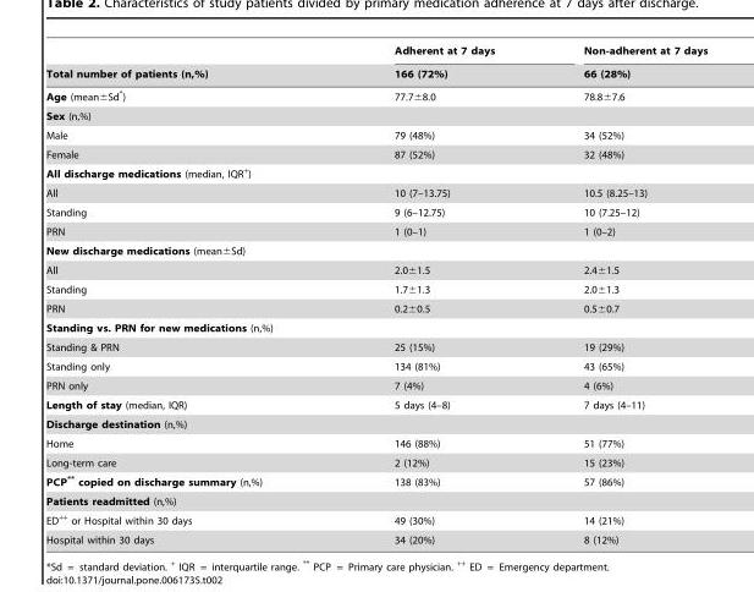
<table><thead><tr><td rowspan="2">Total number of patients (n,%)</td><td rowspan="2">Adherent at 7 days 166 (72%)</td><td rowspan="2">Non-adherent at 7 days 66 (28%)</td></tr><tr></tr></thead><tbody><tr><td>Age (mean±Sd*)</td><td>77.7±8.0</td><td>78.8±7.6</td></tr><tr><td colspan="3">Sex (n,%)</td></tr><tr><td>Male</td><td>79 (48%)</td><td>34 (52%)</td></tr><tr><td>Female</td><td>87 (52%)</td><td>32 (48%)</td></tr><tr><td colspan="3">All discharge medications (median, IQR<sup>+</sup>)</td></tr><tr><td>All</td><td>10 (7–13.75)</td><td>10.5 (8.25–13)</td></tr><tr><td>Standing</td><td>9 (6–12.75)</td><td>10 (7.25–12)</td></tr><tr><td>PRN</td><td>1 (0–1)</td><td>1 (0–2)</td></tr><tr><td colspan="3">New discharge medications (mean±Sd)</td></tr><tr><td>All</td><td>2.0±1.5</td><td>2.4±1.5</td></tr><tr><td>Standing</td><td>1.7±1.3</td><td>2.0±1.3</td></tr><tr><td>PRN</td><td>0.2±0.5</td><td>0.5±0.7</td></tr><tr><td colspan="3">Standing vs. PRN for new medications (n,%)</td></tr><tr><td>Standing &amp; PRN</td><td>25 (15%)</td><td>19 (29%)</td></tr><tr><td>Standing only</td><td>134 (81%)</td><td>43 (65%)</td></tr><tr><td>PRN only</td><td>7 (4%)</td><td>4 (6%)</td></tr><tr><td>Length of stay (median, IQR)</td><td>5 days (4–8)</td><td>7 days (4–11)</td></tr><tr><td colspan="3">Discharge destination (n,%)</td></tr><tr><td>Home</td><td>146 (88%)</td><td>51 (77%)</td></tr><tr><td>Long-term care</td><td>2 (12%)</td><td>15 (23%)</td></tr><tr><td>PCP** copied on discharge summary (n,%)</td><td>138 (83%)</td><td>57 (86%)</td></tr><tr><td colspan="3">Patients readmitted (n,%)</td></tr><tr><td>ED<sup>++</sup> or Hospital within 30 days</td><td>49 (30%)</td><td>14 (21%)</td></tr><tr><td>Hospital within 30 days</td><td>34 (20%)</td><td>8 (12%)</td></tr></tbody></table>